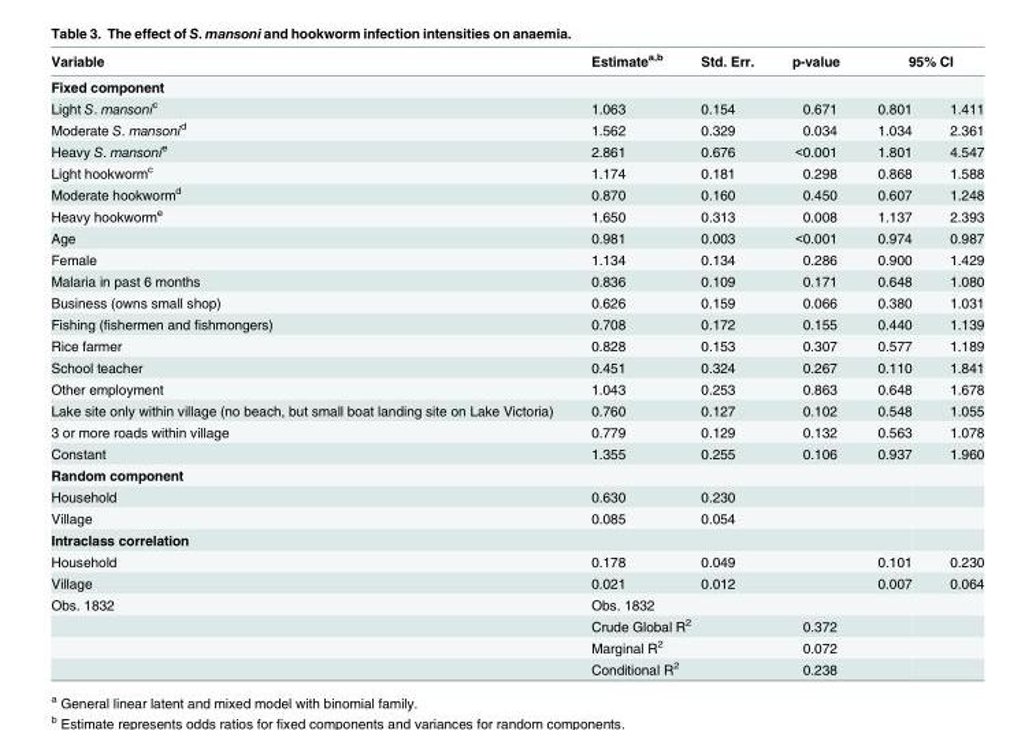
<table><thead><tr><td rowspan="2">Variable Fixed component</td><td rowspan="2">Estimate<sup>a,b</sup></td><td rowspan="2">Std. Err.</td><td rowspan="2">p-value</td><td colspan="2">95% CI</td></tr><tr><td></td><td></td></tr></thead><tbody><tr><td>Light S. mansoni<sup>c</sup></td><td>1.063</td><td>0.154</td><td>0.671</td><td>0.801</td><td>1.411</td></tr><tr><td>Moderate S. mansoni<sup>d</sup></td><td>1.562</td><td>0.329</td><td>0.034</td><td>1.034</td><td>2.361</td></tr><tr><td>Heavy S. mansoni<sup>e</sup></td><td>2.861</td><td>0.676</td><td>&lt;0.001</td><td>1.801</td><td>4.547</td></tr><tr><td>Light hookworm<sup>c</sup></td><td>1.174</td><td>0.181</td><td>0.298</td><td>0.868</td><td>1.588</td></tr><tr><td>Moderate hookworm<sup>d</sup></td><td>0.870</td><td>0.160</td><td>0.450</td><td>0.607</td><td>1.248</td></tr><tr><td>Heavy hookworm<sup>e</sup></td><td>1.650</td><td>0.313</td><td>0.008</td><td>1.137</td><td>2.393</td></tr><tr><td>Age</td><td>0.981</td><td>0.003</td><td>&lt;0.001</td><td>0.974</td><td>0.987</td></tr><tr><td>Female</td><td>1.134</td><td>0.134</td><td>0.286</td><td>0.900</td><td>1.429</td></tr><tr><td>Malaria in past 6 months</td><td>0.836</td><td>0.109</td><td>0.171</td><td>0.648</td><td>1.080</td></tr><tr><td>Business (owns small shop)</td><td>0.626</td><td>0.159</td><td>0.066</td><td>0.380</td><td>1.031</td></tr><tr><td>Fishing (fishermen and fishmongers)</td><td>0.708</td><td>0.172</td><td>0.155</td><td>0.440</td><td>1.139</td></tr><tr><td>Rice farmer</td><td>0.828</td><td>0.153</td><td>0.307</td><td>0.577</td><td>1.189</td></tr><tr><td>School teacher</td><td>0.451</td><td>0.324</td><td>0.267</td><td>0.110</td><td>1.841</td></tr><tr><td>Other employment</td><td>1.043</td><td>0.253</td><td>0.863</td><td>0.648</td><td>1.678</td></tr><tr><td>Lake site only within village (no beach, but small boat landing site on Lake Victoria)</td><td>0.760</td><td>0.127</td><td>0.102</td><td>0.548</td><td>1.055</td></tr><tr><td>3 or more roads within village</td><td>0.779</td><td>0.129</td><td>0.132</td><td>0.563</td><td>1.078</td></tr><tr><td>Constant</td><td>1.355</td><td>0.255</td><td>0.106</td><td>0.937</td><td>1.960</td></tr><tr><td colspan="6">Random component</td></tr><tr><td>Household</td><td>0.630</td><td>0.230</td><td></td><td></td><td></td></tr><tr><td>Village</td><td>0.085</td><td>0.054</td><td></td><td></td><td></td></tr><tr><td colspan="6">Intraclass correlation</td></tr><tr><td>Household</td><td>0.178</td><td>0.049</td><td></td><td>0.101</td><td>0.230</td></tr><tr><td>Village</td><td>0.021</td><td>0.012</td><td></td><td>0.007</td><td>0.064</td></tr><tr><td rowspan="4">Obs. 1832</td><td colspan="2">Obs. 1832</td><td></td><td></td><td></td></tr><tr><td colspan="2">Crude Global R<sup>2</sup></td><td>0.372</td><td></td><td></td></tr><tr><td colspan="2">Marginal R<sup>2</sup></td><td>0.072</td><td></td><td></td></tr><tr><td colspan="2">Conditional R<sup>2</sup></td><td>0.238</td><td></td><td></td></tr></tbody></table>